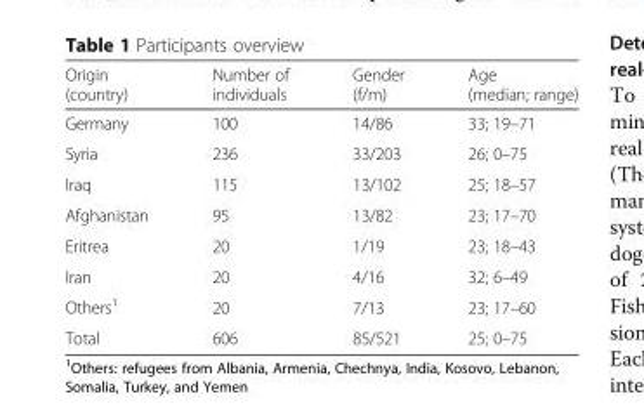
<table><thead><tr><td>Origin (country)</td><td>Number of individuals</td><td>Gender (f/m)</td><td>Age (median; range)</td></tr></thead><tbody><tr><td>Germany</td><td>100</td><td>14/86</td><td>33; 19–71</td></tr><tr><td>Syria</td><td>236</td><td>33/203</td><td>26; 0–75</td></tr><tr><td>Iraq</td><td>115</td><td>13/102</td><td>25; 18–57</td></tr><tr><td>Afghanistan</td><td>95</td><td>13/82</td><td>23; 17–70</td></tr><tr><td>Eritrea</td><td>20</td><td>1/19</td><td>23; 18–43</td></tr><tr><td>Iran</td><td>20</td><td>4/16</td><td>32; 6–49</td></tr><tr><td>Others<sup>1</sup></td><td>20</td><td>7/13</td><td>23; 17–60</td></tr><tr><td>Total</td><td>606</td><td>85/521</td><td>25; 0–75</td></tr></tbody></table>